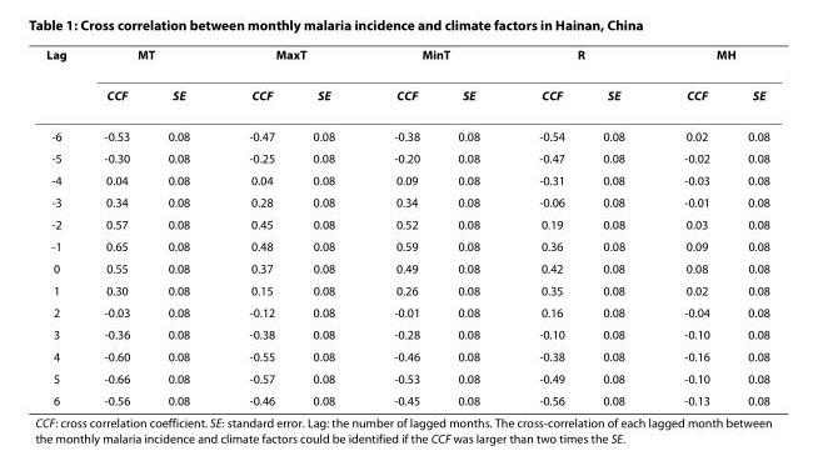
<table><thead><tr><td rowspan="2">Lag</td><td colspan="2">MT</td><td colspan="2">MaxT</td><td colspan="2">MinT</td><td colspan="2">R</td><td colspan="2">MH</td></tr><tr><td>CCF</td><td>SE</td><td>CCF</td><td>SE</td><td>CCF</td><td>SE</td><td>CCF</td><td>SE</td><td>CCF</td><td>SE</td></tr></thead><tbody><tr><td>-6</td><td>-0.53</td><td>0.08</td><td>-0.47</td><td>0.08</td><td>-0.38</td><td>0.08</td><td>-0.54</td><td>0.08</td><td>0.02</td><td>0.08</td></tr><tr><td>-5</td><td>-0.30</td><td>0.08</td><td>-0.25</td><td>0.08</td><td>-0.20</td><td>0.08</td><td>-0.47</td><td>0.08</td><td>-0.02</td><td>0.08</td></tr><tr><td>-4</td><td>0.04</td><td>0.08</td><td>0.04</td><td>0.08</td><td>0.09</td><td>0.08</td><td>-0.31</td><td>0.08</td><td>-0.03</td><td>0.08</td></tr><tr><td>-3</td><td>0.34</td><td>0.08</td><td>0.28</td><td>0.08</td><td>0.34</td><td>0.08</td><td>-0.06</td><td>0.08</td><td>-0.01</td><td>0.08</td></tr><tr><td>-2</td><td>0.57</td><td>0.08</td><td>0.45</td><td>0.08</td><td>0.52</td><td>0.08</td><td>0.19</td><td>0.08</td><td>0.03</td><td>0.08</td></tr><tr><td>-1</td><td>0.65</td><td>0.08</td><td>0.48</td><td>0.08</td><td>0.59</td><td>0.08</td><td>0.36</td><td>0.08</td><td>0.09</td><td>0.08</td></tr><tr><td>0</td><td>0.55</td><td>0.08</td><td>0.37</td><td>0.08</td><td>0.49</td><td>0.08</td><td>0.42</td><td>0.08</td><td>0.08</td><td>0.08</td></tr><tr><td>1</td><td>0.30</td><td>0.08</td><td>0.15</td><td>0.08</td><td>0.26</td><td>0.08</td><td>0.35</td><td>0.08</td><td>0.02</td><td>0.08</td></tr><tr><td>2</td><td>-0.03</td><td>0.08</td><td>-0.12</td><td>0.08</td><td>-0.01</td><td>0.08</td><td>0.16</td><td>0.08</td><td>-0.04</td><td>0.08</td></tr><tr><td>3</td><td>-0.36</td><td>0.08</td><td>-0.38</td><td>0.08</td><td>-0.28</td><td>0.08</td><td>-0.10</td><td>0.08</td><td>-0.10</td><td>0.08</td></tr><tr><td>4</td><td>-0.60</td><td>0.08</td><td>-0.55</td><td>0.08</td><td>-0.46</td><td>0.08</td><td>-0.38</td><td>0.08</td><td>-0.16</td><td>0.08</td></tr><tr><td>5</td><td>-0.66</td><td>0.08</td><td>-0.57</td><td>0.08</td><td>-0.53</td><td>0.08</td><td>-0.49</td><td>0.08</td><td>-0.10</td><td>0.08</td></tr><tr><td>6</td><td>-0.56</td><td>0.08</td><td>-0.46</td><td>0.08</td><td>-0.45</td><td>0.08</td><td>-0.56</td><td>0.08</td><td>-0.13</td><td>0.08</td></tr></tbody></table>